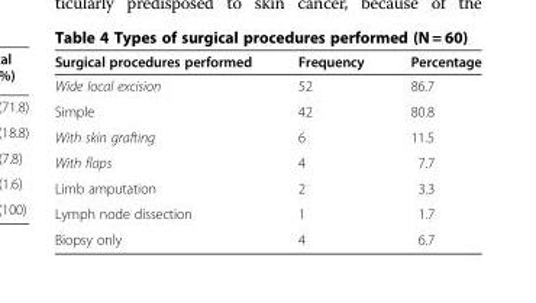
<table><thead><tr><td>Surgical procedures performed</td><td>Frequency</td><td>Percentage</td></tr></thead><tbody><tr><td>Wide local excision</td><td>52</td><td>86.7</td></tr><tr><td>Simple</td><td>42</td><td>80.8</td></tr><tr><td>With skin grafting</td><td>6</td><td>11.5</td></tr><tr><td>With flaps</td><td>4</td><td>7.7</td></tr><tr><td>Limb amputation</td><td>2</td><td>3.3</td></tr><tr><td>Lymph node dissection</td><td>1</td><td>1.7</td></tr><tr><td>Biopsy only</td><td>4</td><td>6.7</td></tr></tbody></table>